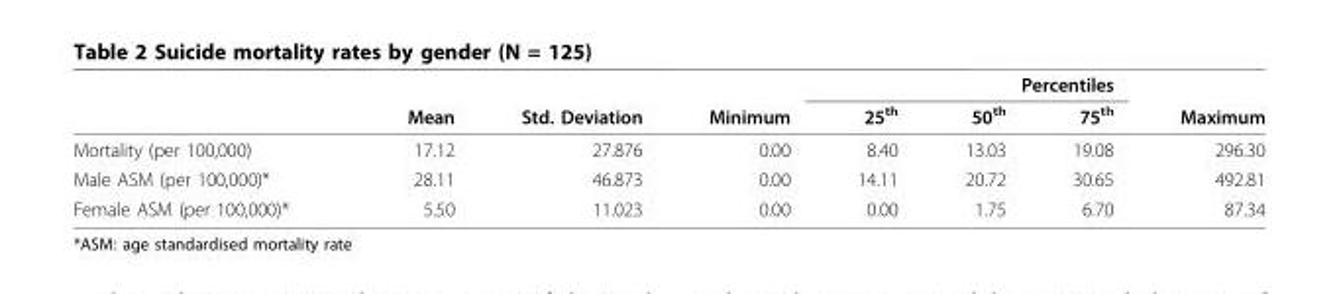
<table><thead><tr><td rowspan="2"></td><td rowspan="2">Mean</td><td rowspan="2">Std. Deviation</td><td rowspan="2">Minimum</td><td colspan="3">Percentiles</td><td rowspan="2">Maximum</td></tr><tr><td>25<sup>th</sup></td><td>50<sup>th</sup></td><td>75<sup>th</sup></td></tr></thead><tbody><tr><td>Mortality (per 100,000)</td><td>17.12</td><td>27.876</td><td>0.00</td><td>8.40</td><td>13.03</td><td>19.08</td><td>296.30</td></tr><tr><td>Male ASM (per 100,000)*</td><td>28.11</td><td>46.873</td><td>0.00</td><td>14.11</td><td>20.72</td><td>30.65</td><td>492.81</td></tr><tr><td>Female ASM (per 100,000)*</td><td>5.50</td><td>11.023</td><td>0.00</td><td>0.00</td><td>1.75</td><td>6.70</td><td>87.34</td></tr></tbody></table>